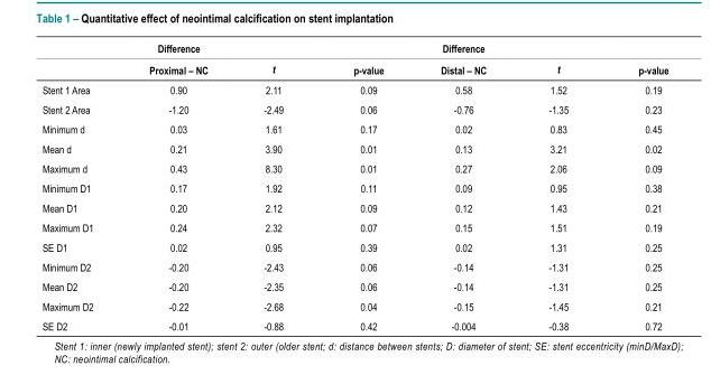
<table><thead><tr><td rowspan="2"></td><td rowspan="2">Difference Proximal – NC</td><td rowspan="2">t</td><td rowspan="2">p-value</td><td rowspan="2">Difference Distal – NC</td><td rowspan="2">t</td><td rowspan="2">p-value</td></tr><tr></tr></thead><tbody><tr><td>Stent 1 Area</td><td>0.90</td><td>2.11</td><td>0.09</td><td>0.58</td><td>1.52</td><td>0.19</td></tr><tr><td>Stent 2 Area</td><td>-1.20</td><td>-2.49</td><td>0.06</td><td>-0.76</td><td>-1.35</td><td>0.23</td></tr><tr><td>Minimum d</td><td>0.03</td><td>1.61</td><td>0.17</td><td>0.02</td><td>0.83</td><td>0.45</td></tr><tr><td>Mean d</td><td>0.21</td><td>3.90</td><td>0.01</td><td>0.13</td><td>3.21</td><td>0.02</td></tr><tr><td>Maximum d</td><td>0.43</td><td>8.30</td><td>0.01</td><td>0.27</td><td>2.06</td><td>0.09</td></tr><tr><td>Minimum D1</td><td>0.17</td><td>1.92</td><td>0.11</td><td>0.09</td><td>0.95</td><td>0.38</td></tr><tr><td>Mean D1</td><td>0.20</td><td>2.12</td><td>0.09</td><td>0.12</td><td>1.43</td><td>0.21</td></tr><tr><td>Maximum D1</td><td>0.24</td><td>2.32</td><td>0.07</td><td>0.15</td><td>1.51</td><td>0.19</td></tr><tr><td>SE D1</td><td>0.02</td><td>0.95</td><td>0.39</td><td>0.02</td><td>1.31</td><td>0.25</td></tr><tr><td>Minimum D2</td><td>-0.20</td><td>-2.43</td><td>0.06</td><td>-0.14</td><td>-1.31</td><td>0.25</td></tr><tr><td>Mean D2</td><td>-0.20</td><td>-2.35</td><td>0.06</td><td>-0.14</td><td>-1.31</td><td>0.25</td></tr><tr><td>Maximum D2</td><td>-0.22</td><td>-2.68</td><td>0.04</td><td>-0.15</td><td>-1.45</td><td>0.21</td></tr><tr><td>SE D2</td><td>-0.01</td><td>-0.88</td><td>0.42</td><td>-0.004</td><td>-0.38</td><td>0.72</td></tr></tbody></table>